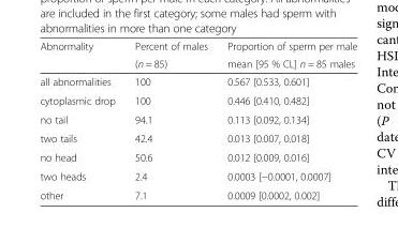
<table><thead><tr><td rowspan="2">Abnormality</td><td rowspan="2">Percent of males (n = 85)</td><td rowspan="2">Proportion of sperm per male mean [95 % CL] n = 85 males</td></tr><tr></tr></thead><tbody><tr><td>all abnormalities</td><td>100</td><td>0.567 [0.533, 0.601]</td></tr><tr><td>cytoplasmic drop</td><td>100</td><td>0.446 [0.410, 0.482]</td></tr><tr><td>no tail</td><td>94.1</td><td>0.113 [0.092, 0.134]</td></tr><tr><td>two tails</td><td>42.4</td><td>0.013 [0.007, 0.018]</td></tr><tr><td>no head</td><td>50.6</td><td>0.012 [0.009, 0.016]</td></tr><tr><td>two heads</td><td>2.4</td><td>0.0003 [−0.0001, 0.0007]</td></tr><tr><td>other</td><td>7.1</td><td>0.0009 [0.0002, 0.002]</td></tr></tbody></table>